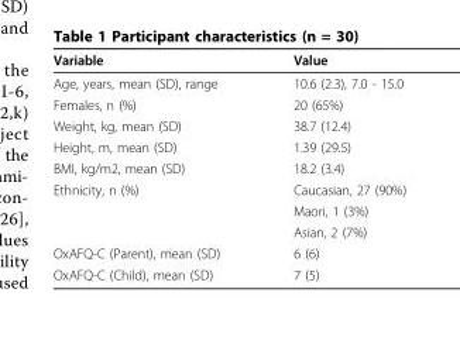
<table><thead><tr><td>Variable</td><td>Value</td></tr></thead><tbody><tr><td>Age, years, mean (SD), range</td><td>10.6 (2.3), 7.0 - 15.0</td></tr><tr><td>Females, n (%)</td><td>20 (65%)</td></tr><tr><td>Weight, kg, mean (SD)</td><td>38.7 (12.4)</td></tr><tr><td>Height, m, mean (SD)</td><td>1.39 (29.5)</td></tr><tr><td>BMI, kg/m2, mean (SD)</td><td>18.2 (3.4)</td></tr><tr><td rowspan="3">Ethnicity, n (%)</td><td>Caucasian, 27 (90%)</td></tr><tr><td>Maori, 1 (3%)</td></tr><tr><td>Asian, 2 (7%)</td></tr><tr><td>OxAFQ-C (Parent), mean (SD)</td><td>6 (6)</td></tr><tr><td>OxAFQ-C (Child), mean (SD)</td><td>7 (5)</td></tr></tbody></table>